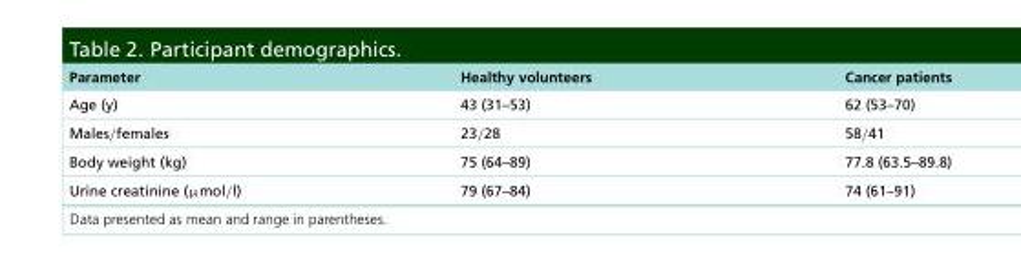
<table><thead><tr><td>Parameter</td><td>Healthy volunteers</td><td>Cancer patients</td></tr></thead><tbody><tr><td>Age (y)</td><td>43 (31–53)</td><td>62 (53–70)</td></tr><tr><td>Males/females</td><td>23/28</td><td>58/41</td></tr><tr><td>Body weight (kg)</td><td>75 (64–89)</td><td>77.8 (63.5–89.8)</td></tr><tr><td>Urine creatinine (μmol/l)</td><td>79 (67–84)</td><td>74 (61–91)</td></tr></tbody></table>